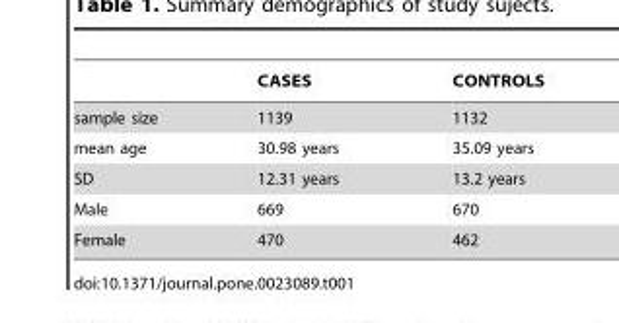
<table><thead><tr><td></td><td>CASES</td><td>CONTROLS</td></tr></thead><tbody><tr><td>sample size</td><td>1139</td><td>1132</td></tr><tr><td>mean age</td><td>30.98 years</td><td>35.09 years</td></tr><tr><td>SD</td><td>12.31 years</td><td>13.2 years</td></tr><tr><td>Male</td><td>669</td><td>670</td></tr><tr><td>Female</td><td>470</td><td>462</td></tr></tbody></table>